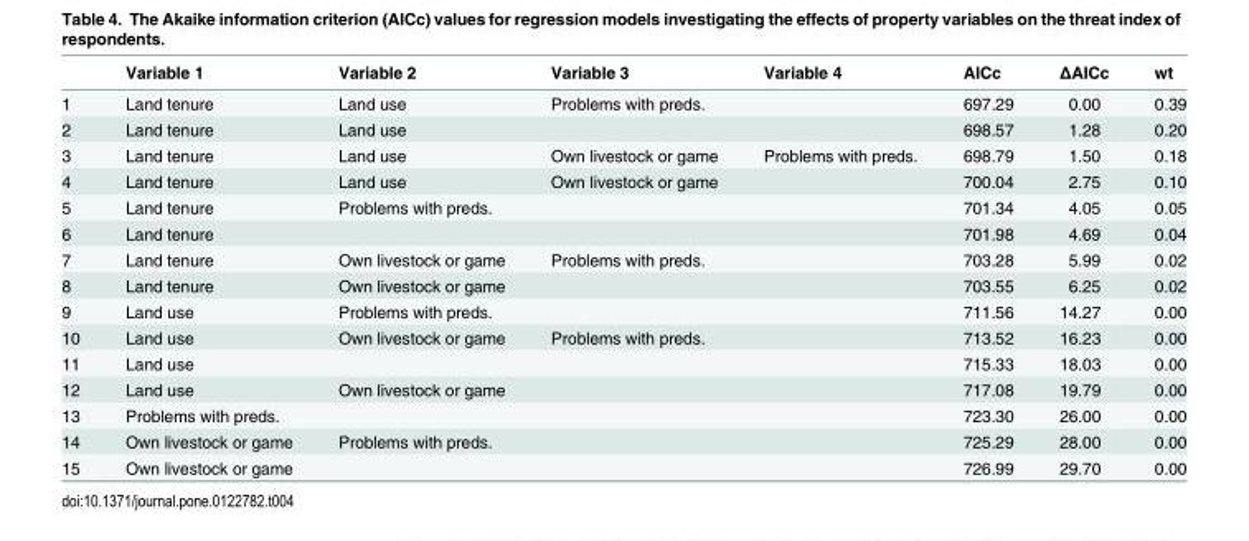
<table><thead><tr><td></td><td>Variable 1</td><td>Variable 2</td><td>Variable 3</td><td>Variable 4</td><td>AICc</td><td>ΔAICc</td><td>wt</td></tr></thead><tbody><tr><td>1</td><td>Land tenure</td><td>Land use</td><td>Problems with preds.</td><td></td><td>697.29</td><td>0.00</td><td>0.39</td></tr><tr><td>2</td><td>Land tenure</td><td>Land use</td><td></td><td></td><td>698.57</td><td>1.28</td><td>0.20</td></tr><tr><td>3</td><td>Land tenure</td><td>Land use</td><td>Own livestock or game</td><td>Problems with preds.</td><td>698.79</td><td>1.50</td><td>0.18</td></tr><tr><td>4</td><td>Land tenure</td><td>Land use</td><td>Own livestock or game</td><td></td><td>700.04</td><td>2.75</td><td>0.10</td></tr><tr><td>5</td><td>Land tenure</td><td>Problems with preds.</td><td></td><td></td><td>701.34</td><td>4.05</td><td>0.05</td></tr><tr><td>6</td><td>Land tenure</td><td></td><td></td><td></td><td>701.98</td><td>4.69</td><td>0.04</td></tr><tr><td>7</td><td>Land tenure</td><td>Own livestock or game</td><td>Problems with preds.</td><td></td><td>703.28</td><td>5.99</td><td>0.02</td></tr><tr><td>8</td><td>Land tenure</td><td>Own livestock or game</td><td></td><td></td><td>703.55</td><td>6.25</td><td>0.02</td></tr><tr><td>9</td><td>Land use</td><td>Problems with preds.</td><td></td><td></td><td>711.56</td><td>14.27</td><td>0.00</td></tr><tr><td>10</td><td>Land use</td><td>Own livestock or game</td><td>Problems with preds.</td><td></td><td>713.52</td><td>16.23</td><td>0.00</td></tr><tr><td>11</td><td>Land use</td><td></td><td></td><td></td><td>715.33</td><td>18.03</td><td>0.00</td></tr><tr><td>12</td><td>Land use</td><td>Own livestock or game</td><td></td><td></td><td>717.08</td><td>19.79</td><td>0.00</td></tr><tr><td>13</td><td>Problems with preds.</td><td></td><td></td><td></td><td>723.30</td><td>26.00</td><td>0.00</td></tr><tr><td>14</td><td>Own livestock or game</td><td>Problems with preds.</td><td></td><td></td><td>725.29</td><td>28.00</td><td>0.00</td></tr><tr><td>15</td><td>Own livestock or game</td><td></td><td></td><td></td><td>726.99</td><td>29.70</td><td>0.00</td></tr></tbody></table>